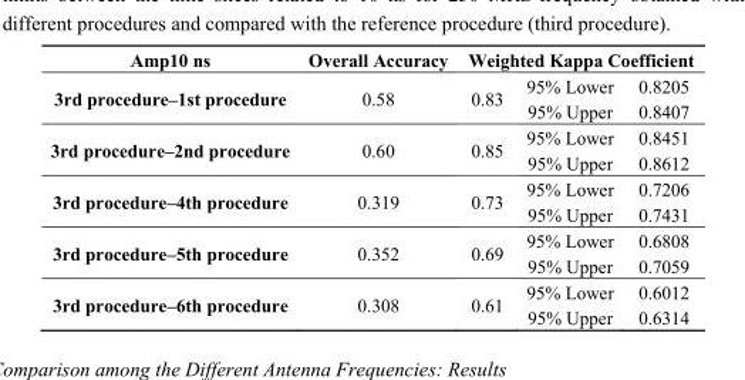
<table><thead><tr><td rowspan="2">Amp10 ns 3rd procedure–1st procedure</td><td rowspan="2">Overall Accuracy 0.58</td><td colspan="3">Weighted Kappa Coefficient</td></tr><tr><td>0.83</td><td>95% Lower 95% Upper</td><td>0.8205 0.8407</td></tr></thead><tbody><tr><td>3rd procedure–2nd procedure</td><td>0.60</td><td>0.85</td><td>95% Lower 95% Upper</td><td>0.8451 0.8612</td></tr><tr><td>3rd procedure–4th procedure</td><td>0.319</td><td>0.73</td><td>95% Lower 95% Upper</td><td>0.7206 0.7431</td></tr><tr><td>3rd procedure–5th procedure</td><td>0.352</td><td>0.69</td><td>95% Lower 95% Upper</td><td>0.6808 0.7059</td></tr><tr><td>3rd procedure–6th procedure</td><td>0.308</td><td>0.61</td><td>95% Lower 95% Upper</td><td>0.6012 0.6314</td></tr></tbody></table>